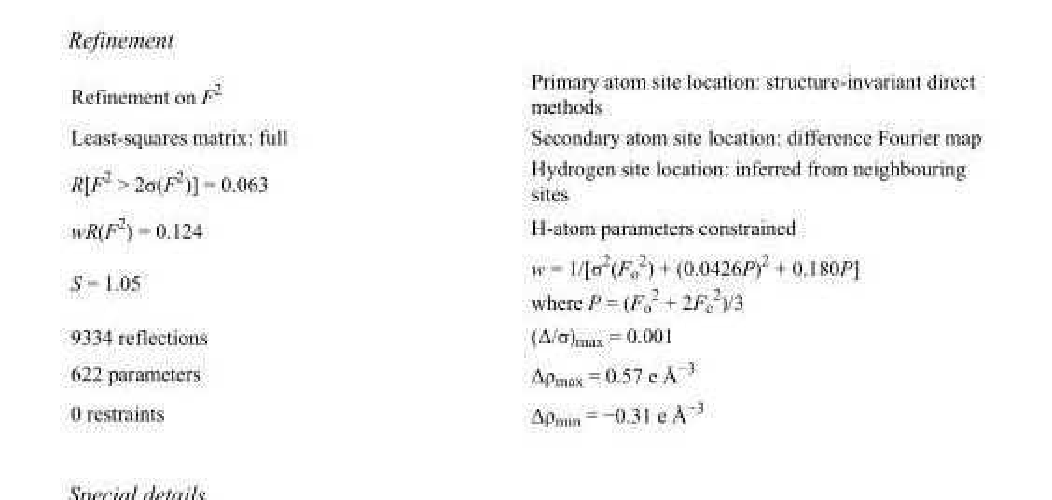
<table><tbody><tr><td>Refinement on F<sup>2</sup></td><td>Primary atom site location: structure-invariant direct methods</td></tr><tr><td>Least-squares matrix: full</td><td>Secondary atom site location: difference Fourier map</td></tr><tr><td>R[F<sup>2</sup> &gt; 2σ(F<sup>2</sup>)] = 0.063</td><td>Hydrogen site location: inferred from neighbouring sites</td></tr><tr><td>wR(F<sup>2</sup>) = 0.124</td><td>H-atom parameters constrained</td></tr><tr><td>S = 1.05</td><td>w = 1/[σ<sup>2</sup>(F<sub>o</sub> <sup>2</sup>) + (0.0426P)<sup>2</sup> + 0.180P] where P = (F<sub>o</sub> <sup>2</sup> + 2F<sub>c</sub> <sup>2</sup>)/3</td></tr><tr><td>9334 reflections</td><td>(Δ/σ)<sub>max</sub> = 0.001</td></tr><tr><td>622 parameters</td><td>Δρ<sub>max</sub> = 0.57 e Å<sup>−3</sup></td></tr><tr><td>0 restraints</td><td>Δρ<sub>min</sub> = −0.31 e Å<sup>−3</sup></td></tr></tbody></table>